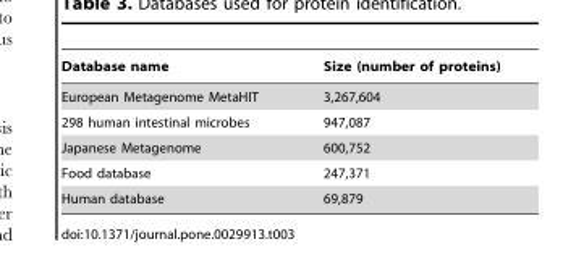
<table><thead><tr><td>Database name</td><td>Size (number of proteins)</td></tr></thead><tbody><tr><td>European Metagenome MetaHIT</td><td>3,267,604</td></tr><tr><td>298 human intestinal microbes</td><td>947,087</td></tr><tr><td>Japanese Metagenome</td><td>600,752</td></tr><tr><td>Food database</td><td>247,371</td></tr><tr><td>Human database</td><td>69,879</td></tr></tbody></table>